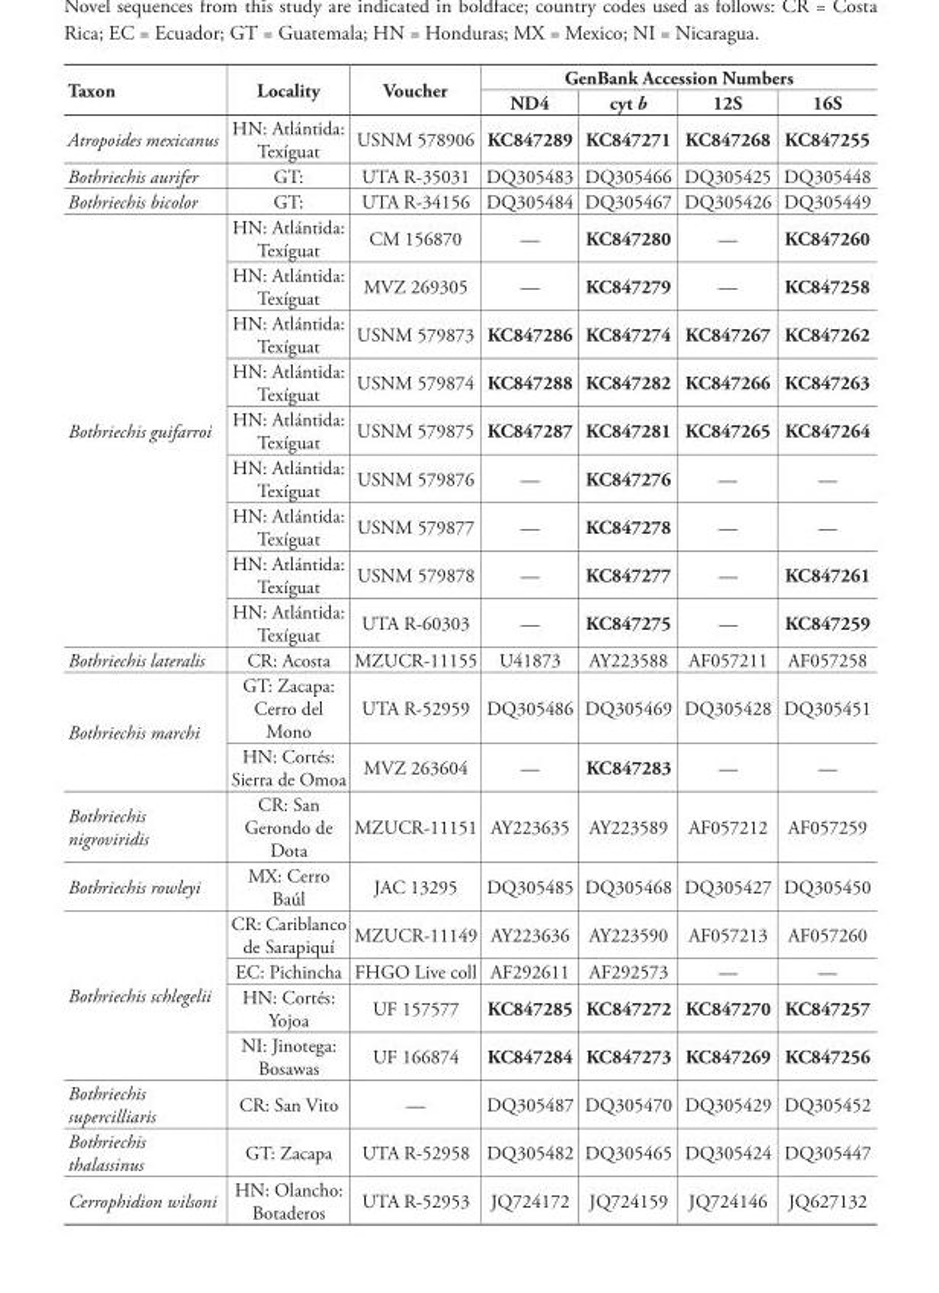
<table><thead><tr><td rowspan="2">Taxon</td><td rowspan="2">Locality</td><td rowspan="2">Voucher</td><td colspan="4">GenBank Accession Numbers</td></tr><tr><td>ND4</td><td>cyt b</td><td>12S</td><td>16S</td></tr></thead><tbody><tr><td>Atropoides mexicanus</td><td>HN: Atlántida: Texíguat</td><td>USNM 578906</td><td>KC847289</td><td>KC847271</td><td>KC847268</td><td>KC847255</td></tr><tr><td>Bothriechis aurifer</td><td>GT:</td><td>UTA R-35031</td><td>DQ305483</td><td>DQ305466</td><td>DQ305425</td><td>DQ305448</td></tr><tr><td>Bothriechis bicolor</td><td>GT:</td><td>UTA R-34156</td><td>DQ305484</td><td>DQ305467</td><td>DQ305426</td><td>DQ305449</td></tr><tr><td rowspan="9">Bothriechis guifarroi</td><td>HN: Atlántida: Texíguat</td><td>CM 156870</td><td>—</td><td>KC847280</td><td>—</td><td>KC847260</td></tr><tr><td>HN: Atlántida: Texíguat</td><td>MVZ 269305</td><td>—</td><td>KC847279</td><td>—</td><td>KC847258</td></tr><tr><td>HN: Atlántida: Texíguat</td><td>USNM 579873</td><td>KC847286</td><td>KC847274</td><td>KC847267</td><td>KC847262</td></tr><tr><td>HN: Atlántida: Texíguat</td><td>USNM 579874</td><td>KC847288</td><td>KC847282</td><td>KC847266</td><td>KC847263</td></tr><tr><td>HN: Atlántida: Texíguat</td><td>USNM 579875</td><td>KC847287</td><td>KC847281</td><td>KC847265</td><td>KC847264</td></tr><tr><td>HN: Atlántida: Texíguat</td><td>USNM 579876</td><td>—</td><td>KC847276</td><td>—</td><td>—</td></tr><tr><td>HN: Atlántida: Texíguat</td><td>USNM 579877</td><td>—</td><td>KC847278</td><td>—</td><td>—</td></tr><tr><td>HN: Atlántida: Texíguat</td><td>USNM 579878</td><td>—</td><td>KC847277</td><td>—</td><td>KC847261</td></tr><tr><td>HN: Atlántida: Texíguat</td><td>UTA R-60303</td><td>—</td><td>KC847275</td><td>—</td><td>KC847259</td></tr><tr><td>Bothriechis lateralis</td><td>CR: Acosta</td><td>MZUCR-11155</td><td>U41873</td><td>AY223588</td><td>AF057211</td><td>AF057258</td></tr><tr><td rowspan="2">Bothriechis marchi</td><td>GT: Zacapa: Cerro del Mono</td><td>UTA R-52959</td><td>DQ305486</td><td>DQ305469</td><td>DQ305428</td><td>DQ305451</td></tr><tr><td>HN: Cortés: Sierra de Omoa</td><td>MVZ 263604</td><td>—</td><td>KC847283</td><td>—</td><td>—</td></tr><tr><td>Bothriechis nigroviridis</td><td>CR: San Gerondo de Dota</td><td>MZUCR-11151</td><td>AY223635</td><td>AY223589</td><td>AF057212</td><td>AF057259</td></tr><tr><td>Bothriechis rowleyi</td><td>MX: Cerro Baúl</td><td>JAC 13295</td><td>DQ305485</td><td>DQ305468</td><td>DQ305427</td><td>DQ305450</td></tr><tr><td rowspan="4">Bothriechis schlegelii</td><td>CR: Cariblanco de Sarapiquí</td><td>MZUCR-11149</td><td>AY223636</td><td>AY223590</td><td>AF057213</td><td>AF057260</td></tr><tr><td>EC: Pichincha</td><td>FHGO Live coll</td><td>AF292611</td><td>AF292573</td><td>—</td><td>—</td></tr><tr><td>HN: Cortés: Yojoa</td><td>UF 157577</td><td>KC847285</td><td>KC847272</td><td>KC847270</td><td>KC847257</td></tr><tr><td>NI: Jinotega: Bosawas</td><td>UF 166874</td><td>KC847284</td><td>KC847273</td><td>KC847269</td><td>KC847256</td></tr><tr><td>Bothriechis supercilliaris</td><td>CR: San Vito</td><td>—</td><td>DQ305487</td><td>DQ305470</td><td>DQ305429</td><td>DQ305452</td></tr><tr><td>Bothriechis thalassinus</td><td>GT: Zacapa</td><td>UTA R-52958</td><td>DQ305482</td><td>DQ305465</td><td>DQ305424</td><td>DQ305447</td></tr><tr><td>Cerrophidion wilsoni</td><td>HN: Olancho: Botaderos</td><td>UTA R-52953</td><td>JQ724172</td><td>JQ724159</td><td>JQ724146</td><td>JQ627132</td></tr></tbody></table>